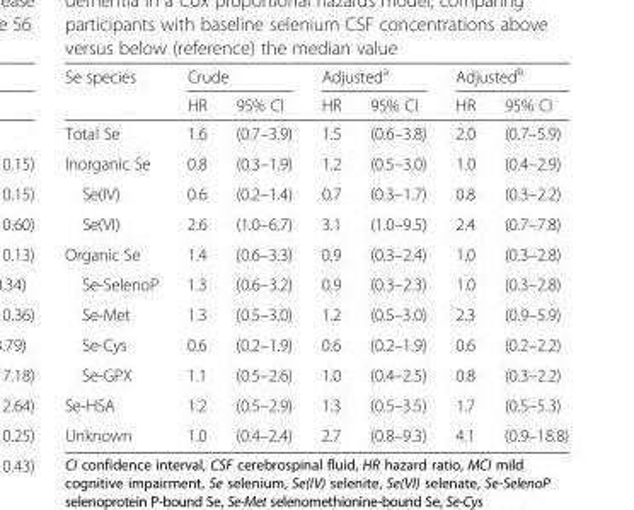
<table><thead><tr><td rowspan="2">Se species</td><td colspan="2">Crude</td><td colspan="2">Adjusted<sup>a</sup></td><td colspan="2">Adjusted<sup>b</sup></td></tr><tr><td>HR</td><td>95% CI</td><td>HR</td><td>95% CI</td><td>HR</td><td>95% CI</td></tr></thead><tbody><tr><td>Total Se</td><td>1.6</td><td>(0.7–3.9)</td><td>1.5</td><td>(0.6–3.8)</td><td>2.0</td><td>(0.7–5.9)</td></tr><tr><td>Inorganic Se</td><td>0.8</td><td>(0.3–1.9)</td><td>1.2</td><td>(0.5–3.0)</td><td>1.0</td><td>(0.4–2.9)</td></tr><tr><td>Se(IV)</td><td>0.6</td><td>(0.2–1.4)</td><td>0.7</td><td>(0.3–1.7)</td><td>0.8</td><td>(0.3–2.2)</td></tr><tr><td>Se(VI)</td><td>2.6</td><td>(1.0–6.7)</td><td>3.1</td><td>(1.0–9.5)</td><td>2.4</td><td>(0.7–7.8)</td></tr><tr><td>Organic Se</td><td>1.4</td><td>(0.6–3.3)</td><td>0.9</td><td>(0.3–2.4)</td><td>1.0</td><td>(0.3–2.8)</td></tr><tr><td>Se-SelenoP</td><td>1.3</td><td>(0.6–3.2)</td><td>0.9</td><td>(0.3–2.3)</td><td>1.0</td><td>(0.3–2.8)</td></tr><tr><td>Se-Met</td><td>1.3</td><td>(0.5–3.0)</td><td>1.2</td><td>(0.5–3.0)</td><td>2.3</td><td>(0.9–5.9)</td></tr><tr><td>Se-Cys</td><td>0.6</td><td>(0.2–1.9)</td><td>0.6</td><td>(0.2–1.9)</td><td>0.6</td><td>(0.2–2.2)</td></tr><tr><td>Se-GPX</td><td>1.1</td><td>(0.5–2.6)</td><td>1.0</td><td>(0.4–2.5)</td><td>0.8</td><td>(0.3–2.2)</td></tr><tr><td>Se-HSA</td><td>1.2</td><td>(0.5–2.9)</td><td>1.3</td><td>(0.5–3.5)</td><td>1.7</td><td>(0.5–5.3)</td></tr><tr><td>Unknown</td><td>1.0</td><td>(0.4–2.4)</td><td>2.7</td><td>(0.8–9.3)</td><td>4.1</td><td>(0.9–18.8)</td></tr></tbody></table>